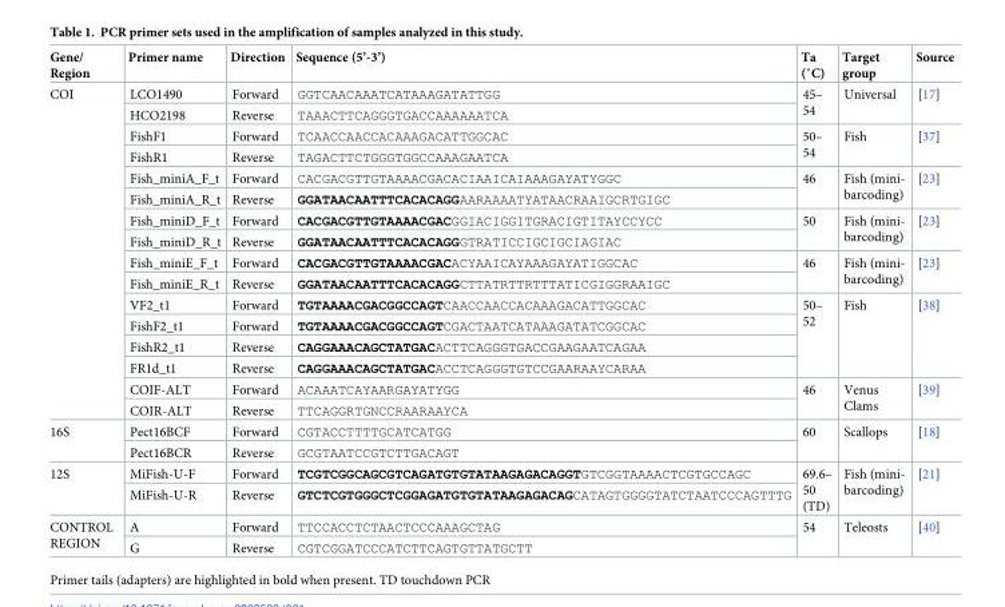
<table><thead><tr><td>Gene/ Region</td><td>Primer name</td><td>Direction</td><td>Sequence (5’-3’)</td><td>Ta (˚C)</td><td>Target group</td><td>Source</td></tr></thead><tbody><tr><td rowspan="16">COI</td><td>LCO1490</td><td>Forward</td><td>GGTCAACAAATCATAAAGATATTGG</td><td rowspan="2">45– 54</td><td rowspan="2">Universal</td><td rowspan="2">[17]</td></tr><tr><td>HCO2198</td><td>Reverse</td><td>TAAACTTCAGGGTGACCAAAAAATCA</td></tr><tr><td>FishF1</td><td>Forward</td><td>TCAACCAACCACAAAGACATTGGCAC</td><td rowspan="2">50– 54</td><td rowspan="2">Fish</td><td rowspan="2">[37]</td></tr><tr><td>FishR1</td><td>Reverse</td><td>TAGACTTCTGGGTGGCCAAAGAATCA</td></tr><tr><td>Fish_miniA_F_t</td><td>Forward</td><td>CACGACGTTGTAAAACGACACIAAICAIAAAGAYATYGGC</td><td rowspan="2">46</td><td rowspan="2">Fish (mini- barcoding)</td><td rowspan="2">[23]</td></tr><tr><td>Fish_miniA_R_t</td><td>Reverse</td><td>GGATAACAATTTCACACAGGAARAAAATYATAACRAAIGCRTGIGC</td></tr><tr><td>Fish_miniD_F_t</td><td>Forward</td><td>CACGACGTTGTAAAACGACGGIACIGGITGRACIGTITAYCCYCC</td><td rowspan="2">50</td><td rowspan="2">Fish (mini- barcoding)</td><td rowspan="2">[23]</td></tr><tr><td>Fish_miniD_R_t</td><td>Reverse</td><td>GGATAACAATTTCACACAGGGTRATICCIGCIGCIAGIAC</td></tr><tr><td>Fish_miniE_F_t</td><td>Forward</td><td>CACGACGTTGTAAAACGACACYAAICAYAAAGAYATIGGCAC</td><td rowspan="2">46</td><td rowspan="2">Fish (mini- barcoding)</td><td rowspan="2">[23]</td></tr><tr><td>Fish_miniE_R_t</td><td>Reverse</td><td>GGATAACAATTTCACACAGGCTTATRTTRTTTATICGIGGRAAIGC</td></tr><tr><td>VF2_t1</td><td>Forward</td><td>TGTAAAACGACGGCCAGTCAACCAACCACAAAGACATTGGCAC</td><td rowspan="4">50– 52</td><td rowspan="4">Fish</td><td rowspan="4">[38]</td></tr><tr><td>FishF2_t1</td><td>Forward</td><td>TGTAAAACGACGGCCAGTCGACTAATCATAAAGATATCGGCAC</td></tr><tr><td>FishR2_t1</td><td>Reverse</td><td>CAGGAAACAGCTATGACACTTCAGGGTGACCGAAGAATCAGAA</td></tr><tr><td>FR1d_t1</td><td>Reverse</td><td>CAGGAAACAGCTATGACACCTCAGGGTGTCCGAARAAYCARAA</td></tr><tr><td>COIF-ALT</td><td>Forward</td><td>ACAAATCAYAARGAYATYGG</td><td rowspan="2">46</td><td rowspan="2">Venus Clams</td><td rowspan="2">[39]</td></tr><tr><td>COIR-ALT</td><td>Reverse</td><td>TTCAGGRTGNCCRAARAAYCA</td></tr><tr><td rowspan="2">16S</td><td>Pect16BCF</td><td>Forward</td><td>CGTACCTTTTGCATCATGG</td><td rowspan="2">60</td><td rowspan="2">Scallops</td><td rowspan="2">[18]</td></tr><tr><td>Pect16BCR</td><td>Reverse</td><td>GCGTAATCCGTCTTGACAGT</td></tr><tr><td rowspan="2">12S</td><td>MiFish-U-F</td><td>Forward</td><td>TCGTCGGCAGCGTCAGATGTGTATAAGAGACAGGTGTCGGTAAAACTCGTGCCAGC</td><td rowspan="2">69.6– 50 (TD)</td><td rowspan="2">Fish (mini- barcoding)</td><td rowspan="2">[21]</td></tr><tr><td>MiFish-U-R</td><td>Reverse</td><td>GTCTCGTGGGCTCGGAGATGTGTATAAGAGACAGCATAGTGGGGTATCTAATCCCAGTTTG</td></tr><tr><td rowspan="2">CONTROL REGION</td><td>A</td><td>Forward</td><td>TTCCACCTCTAACTCCCAAAGCTAG</td><td rowspan="2">54</td><td rowspan="2">Teleosts</td><td rowspan="2">[40]</td></tr><tr><td>G</td><td>Reverse</td><td>CGTCGGATCCCATCTTCAGTGTTATGCTT</td></tr></tbody></table>